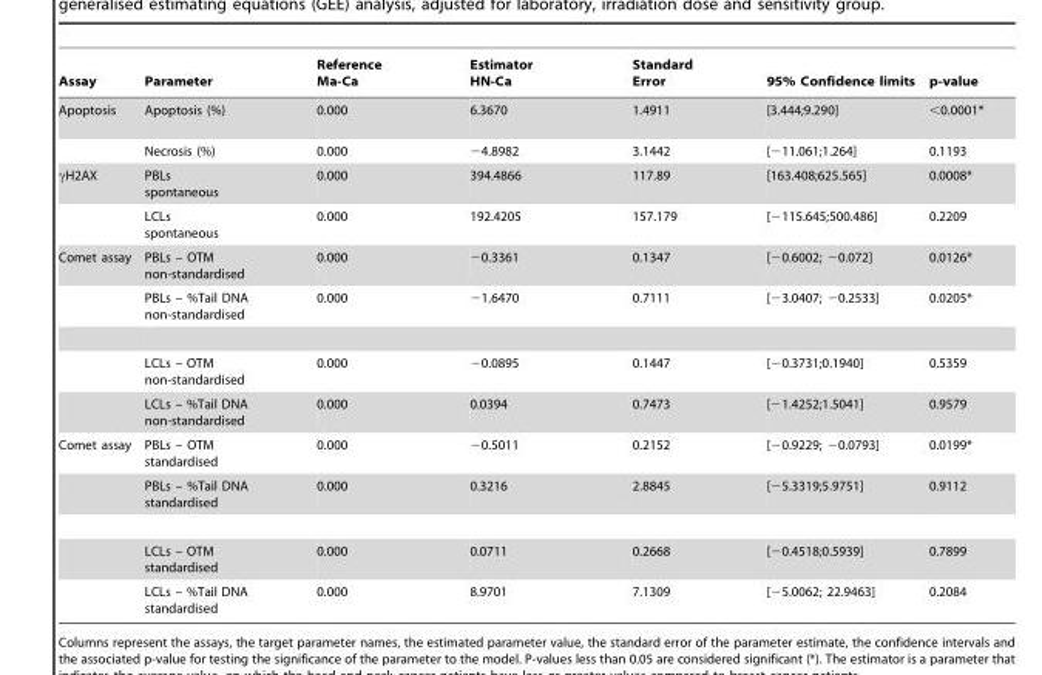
<table><thead><tr><td>Assay</td><td>Parameter</td><td>Reference Ma-Ca</td><td>Estimator HN-Ca</td><td>Standard Error</td><td>95% Confidence limits</td><td>p-value</td></tr></thead><tbody><tr><td rowspan="2">Apoptosis</td><td>Apoptosis (%)</td><td>0.000</td><td>6.3670</td><td>1.4911</td><td>[3.444;9.290]</td><td>&lt;0.0001*</td></tr><tr><td>Necrosis (%)</td><td>0.000</td><td>−4.8982</td><td>3.1442</td><td>[−11.061;1.264]</td><td>0.1193</td></tr><tr><td rowspan="2">γH2AX</td><td>PBLs spontaneous</td><td>0.000</td><td>394.4866</td><td>117.89</td><td>[163.408;625.565]</td><td>0.0008*</td></tr><tr><td>LCLs spontaneous</td><td>0.000</td><td>192.4205</td><td>157.179</td><td>[−115.645;500.486]</td><td>0.2209</td></tr><tr><td rowspan="4">Comet assay</td><td>PBLs – OTM non-standardised</td><td>0.000</td><td>−0.3361</td><td>0.1347</td><td>[−0.6002; −0.072]</td><td>0.0126*</td></tr><tr><td>PBLs – %Tail DNA non-standardised</td><td>0.000</td><td>−1.6470</td><td>0.7111</td><td>[−3.0407; −0.2533]</td><td>0.0205*</td></tr><tr><td>LCLs – OTM non-standardised</td><td>0.000</td><td>−0.0895</td><td>0.1447</td><td>[−0.3731;0.1940]</td><td>0.5359</td></tr><tr><td>LCLs – %Tail DNA non-standardised</td><td>0.000</td><td>0.0394</td><td>0.7473</td><td>[−1.4252;1.5041]</td><td>0.9579</td></tr><tr><td rowspan="4">Comet assay</td><td>PBLs – OTM standardised</td><td>0.000</td><td>−0.5011</td><td>0.2152</td><td>[−0.9229; −0.0793]</td><td>0.0199*</td></tr><tr><td>PBLs – %Tail DNA standardised</td><td>0.000</td><td>0.3216</td><td>2.8845</td><td>[−5.3319;5.9751]</td><td>0.9112</td></tr><tr><td>LCLs – OTM standardised</td><td>0.000</td><td>0.0711</td><td>0.2668</td><td>[−0.4518;0.5939]</td><td>0.7899</td></tr><tr><td>LCLs – %Tail DNA standardised</td><td>0.000</td><td>8.9701</td><td>7.1309</td><td>[−5.0062; 22.9463]</td><td>0.2084</td></tr></tbody></table>